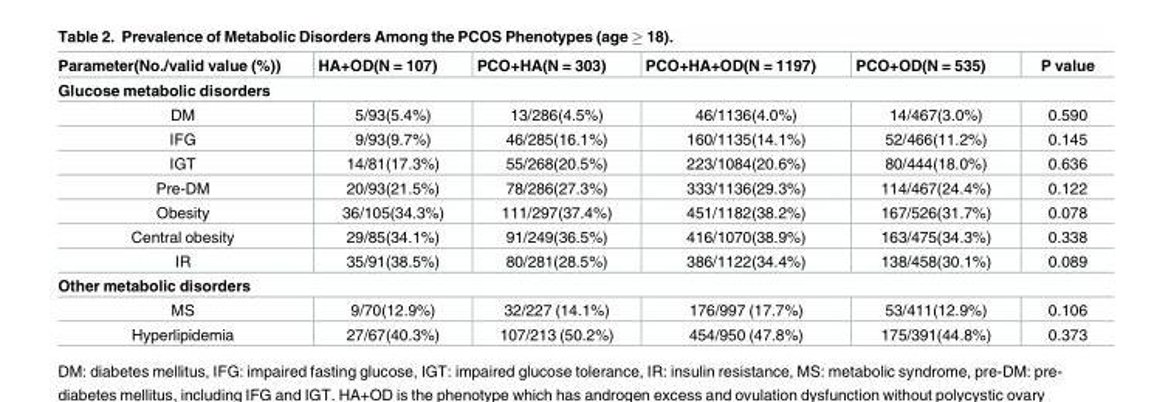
<table><thead><tr><td>Parameter(No./valid value (%))</td><td>HA+OD(N = 107)</td><td>PCO+HA(N = 303)</td><td>PCO+HA+OD(N = 1197)</td><td>PCO+OD(N = 535)</td><td>P value</td></tr></thead><tbody><tr><td colspan="6">Glucose metabolic disorders</td></tr><tr><td>DM</td><td>5/93(5.4%)</td><td>13/286(4.5%)</td><td>46/1136(4.0%)</td><td>14/467(3.0%)</td><td>0.590</td></tr><tr><td>IFG</td><td>9/93(9.7%)</td><td>46/285(16.1%)</td><td>160/1135(14.1%)</td><td>52/466(11.2%)</td><td>0.145</td></tr><tr><td>IGT</td><td>14/81(17.3%)</td><td>55/268(20.5%)</td><td>223/1084(20.6%)</td><td>80/444(18.0%)</td><td>0.636</td></tr><tr><td>Pre-DM</td><td>20/93(21.5%)</td><td>78/286(27.3%)</td><td>333/1136(29.3%)</td><td>114/467(24.4%)</td><td>0.122</td></tr><tr><td>Obesity</td><td>36/105(34.3%)</td><td>111/297(37.4%)</td><td>451/1182(38.2%)</td><td>167/526(31.7%)</td><td>0.078</td></tr><tr><td>Central obesity</td><td>29/85(34.1%)</td><td>91/249(36.5%)</td><td>416/1070(38.9%)</td><td>163/475(34.3%)</td><td>0.338</td></tr><tr><td>IR</td><td>35/91(38.5%)</td><td>80/281(28.5%)</td><td>386/1122(34.4%)</td><td>138/458(30.1%)</td><td>0.089</td></tr><tr><td colspan="6">Other metabolic disorders</td></tr><tr><td>MS</td><td>9/70(12.9%)</td><td>32/227 (14.1%)</td><td>176/997 (17.7%)</td><td>53/411(12.9%)</td><td>0.106</td></tr><tr><td>Hyperlipidemia</td><td>27/67(40.3%)</td><td>107/213 (50.2%)</td><td>454/950 (47.8%)</td><td>175/391(44.8%)</td><td>0.373</td></tr></tbody></table>